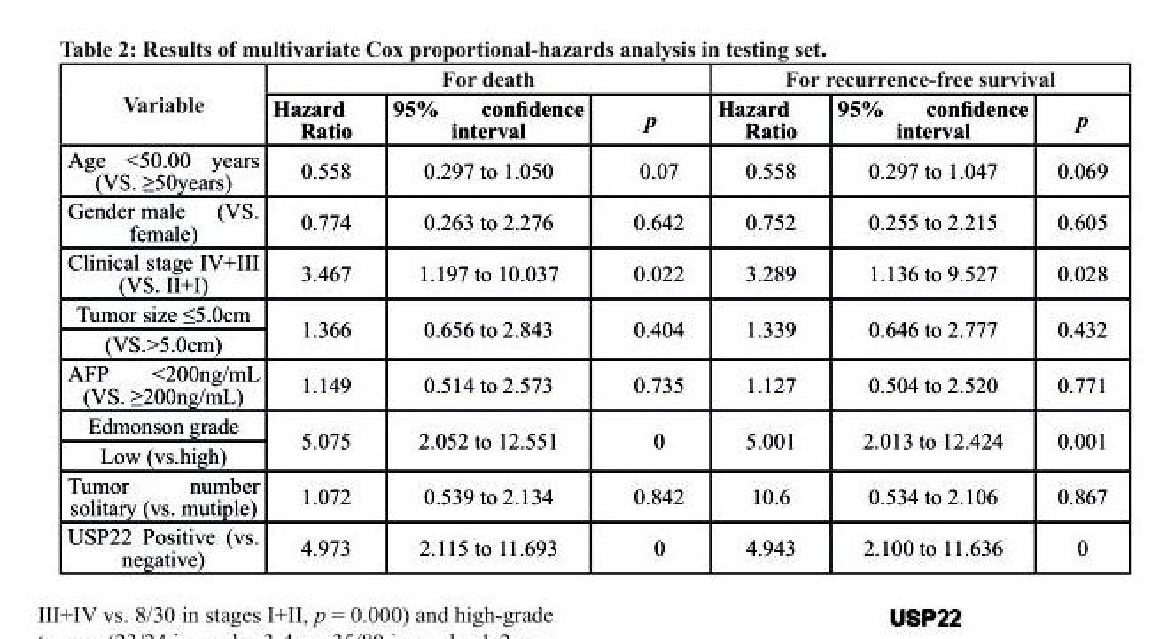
<table><thead><tr><td rowspan="2">Variable</td><td colspan="3">For death</td><td colspan="3">For recurrence-free survival</td></tr><tr><td>Hazard ratio</td><td>95% confidence interval</td><td>p</td><td>Hazard ratio</td><td>95% confidence interval</td><td>p</td></tr></thead><tbody><tr><td>Age &lt;50.00 years (VS. ≥50years)</td><td>0.558</td><td>0.297 to 1.050</td><td>0.07</td><td>0.558</td><td>0.297 to 1.047</td><td>0.069</td></tr><tr><td>Gender male (VS. female)</td><td>0.774</td><td>0.263 to 2.276</td><td>0.642</td><td>0.752</td><td>0.255 to 2.215</td><td>0.605</td></tr><tr><td>Clinical stage IV+III (VS. II+I)</td><td>3.467</td><td>1.197 to 10.037</td><td>0.022</td><td>3.289</td><td>1.136 to 9.527</td><td>0.028</td></tr><tr><td>Tumor size ≤5.0cm</td><td rowspan="2">1.366</td><td rowspan="2">0.656 to 2.843</td><td rowspan="2">0.404</td><td rowspan="2">1.339</td><td rowspan="2">0.646 to 2.777</td><td rowspan="2">0.432</td></tr><tr><td>(VS.&gt;5.0cm)</td></tr><tr><td>AFP &lt;200ng/mL (VS. ≥200ng/mL)</td><td>1.149</td><td>0.514 to 2.573</td><td>0.735</td><td>1.127</td><td>0.504 to 2.520</td><td>0.771</td></tr><tr><td>Edmonson grade</td><td rowspan="2">5.075</td><td rowspan="2">2.052 to 12.551</td><td rowspan="2">0</td><td rowspan="2">5.001</td><td rowspan="2">2.013 to 12.424</td><td rowspan="2">0.001</td></tr><tr><td>Low (vs.high)</td></tr><tr><td>Tumor number solitary (vs. mutiple)</td><td>1.072</td><td>0.539 to 2.134</td><td>0.842</td><td>10.6</td><td>0.534 to 2.106</td><td>0.867</td></tr><tr><td>USP22 Positive (vs. negative)</td><td>4.973</td><td>2.115 to 11.693</td><td>0</td><td>4.943</td><td>2.100 to 11.636</td><td>0</td></tr></tbody></table>